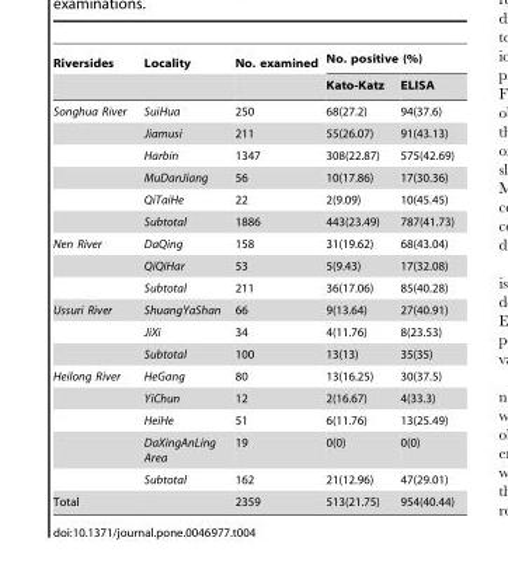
<table><thead><tr><td rowspan="2">Riversides</td><td rowspan="2">Locality</td><td rowspan="2">No. examined</td><td colspan="2">No. positive (%)</td></tr><tr><td>Kato-Katz</td><td>ELISA</td></tr></thead><tbody><tr><td rowspan="6">Songhua River</td><td>SuiHua</td><td>250</td><td>68(27.2)</td><td>94(37.6)</td></tr><tr><td>Jiamusi</td><td>211</td><td>55(26.07)</td><td>91(43.13)</td></tr><tr><td>Harbin</td><td>1347</td><td>308(22.87)</td><td>575(42.69)</td></tr><tr><td>MuDanJiang</td><td>56</td><td>10(17.86)</td><td>17(30.36)</td></tr><tr><td>QiTaiHe</td><td>22</td><td>2(9.09)</td><td>10(45.45)</td></tr><tr><td>Subtotal</td><td>1886</td><td>443(23.49)</td><td>787(41.73)</td></tr><tr><td rowspan="3">Nen River</td><td>DaQing</td><td>158</td><td>31(19.62)</td><td>68(43.04)</td></tr><tr><td>QiQiHar</td><td>53</td><td>5(9.43)</td><td>17(32.08)</td></tr><tr><td>Subtotal</td><td>211</td><td>36(17.06)</td><td>85(40.28)</td></tr><tr><td rowspan="3">Ussuri River</td><td>ShuangYaShan</td><td>66</td><td>9(13.64)</td><td>27(40.91)</td></tr><tr><td>JiXi</td><td>34</td><td>4(11.76)</td><td>8(23.53)</td></tr><tr><td>Subtotal</td><td>100</td><td>13(13)</td><td>35(35)</td></tr><tr><td rowspan="5">Heilong River</td><td>HeGang</td><td>80</td><td>13(16.25)</td><td>30(37.5)</td></tr><tr><td>YiChun</td><td>12</td><td>2(16.67)</td><td>4(33.3)</td></tr><tr><td>HeiHe</td><td>51</td><td>6(11.76)</td><td>13(25.49)</td></tr><tr><td>DaXingAnLing Area</td><td>19</td><td>0(0)</td><td>0(0)</td></tr><tr><td>Subtotal</td><td>162</td><td>21(12.96)</td><td>47(29.01)</td></tr><tr><td>Total</td><td></td><td>2359</td><td>513(21.75)</td><td>954(40.44)</td></tr></tbody></table>